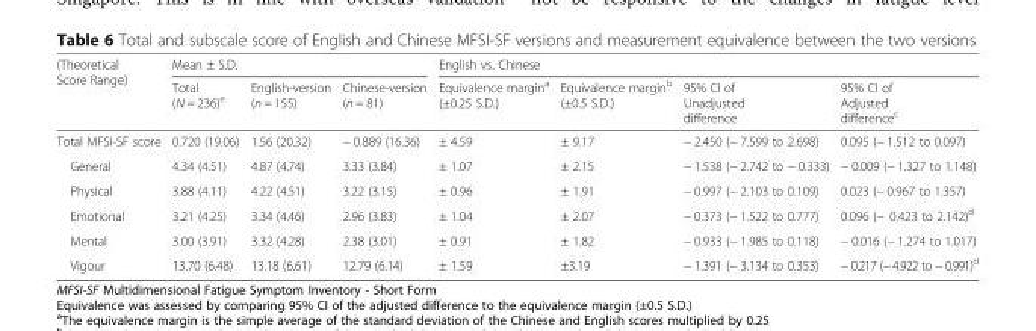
<table><thead><tr><td rowspan="2">(Theoretical Score Range)</td><td colspan="3">Mean ± S.D.</td><td colspan="4">English vs. Chinese</td></tr><tr><td>Total (N = 236)<sup>e</sup></td><td>English-version (n = 155)</td><td>Chinese-version (n = 81)</td><td>Equivalence margin<sup>a</sup> (±0.25 S.D.)</td><td>Equivalence margin<sup>b</sup> (±0.5 S.D.)</td><td>95% CI of Unadjusted difference</td><td>95% CI of Adjusted difference<sup>c</sup></td></tr></thead><tbody><tr><td>Total MFSI-SF score</td><td>0.720 (19.06)</td><td>1.56 (20.32)</td><td>− 0.889 (16.36)</td><td>± 4.59</td><td>± 9.17</td><td>− 2.450 (− 7.599 to 2.698)</td><td>0.095 (− 1.512 to 0.097)</td></tr><tr><td>General</td><td>4.34 (4.51)</td><td>4.87 (4.74)</td><td>3.33 (3.84)</td><td>± 1.07</td><td>± 2.15</td><td>− 1.538 (− 2.742 to − 0.333)</td><td>− 0.009 (− 1.327 to 1.148)</td></tr><tr><td>Physical</td><td>3.88 (4.11)</td><td>4.22 (4.51)</td><td>3.22 (3.15)</td><td>± 0.96</td><td>± 1.91</td><td>− 0.997 (− 2.103 to 0.109)</td><td>0.023 (− 0.967 to 1.357)</td></tr><tr><td>Emotional</td><td>3.21 (4.25)</td><td>3.34 (4.46)</td><td>2.96 (3.83)</td><td>± 1.04</td><td>± 2.07</td><td>− 0.373 (− 1.522 to 0.777)</td><td>0.096 (− 0.423 to 2.142)<sup>d</sup></td></tr><tr><td>Mental</td><td>3.00 (3.91)</td><td>3.32 (4.28)</td><td>2.38 (3.01)</td><td>± 0.91</td><td>± 1.82</td><td>− 0.933 (− 1.985 to 0.118)</td><td>− 0.016 (− 1.274 to 1.017)</td></tr><tr><td>Vigour</td><td>13.70 (6.48)</td><td>13.18 (6.61)</td><td>12.79 (6.14)</td><td>± 1.59</td><td>±3.19</td><td>− 1.391 (− 3.134 to 0.353)</td><td>− 0.217 (− 4.922 to − 0.991)<sup>d</sup></td></tr></tbody></table>